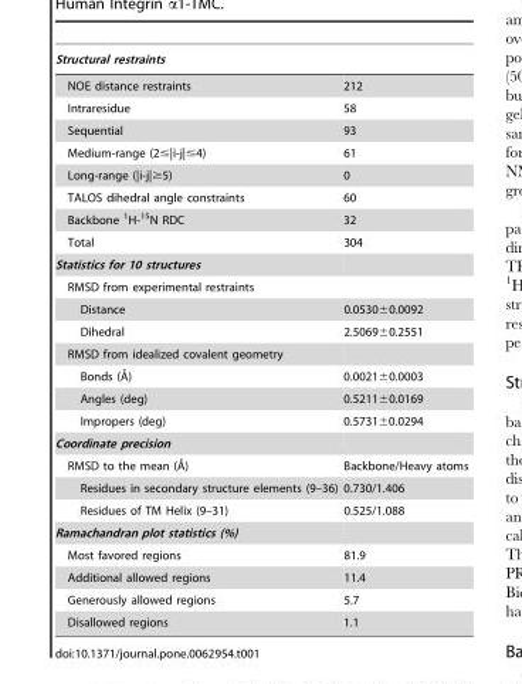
<table><thead><tr><td>Structural restraints</td><td></td></tr></thead><tbody><tr><td>NOE distance restraints</td><td>212</td></tr><tr><td>Intraresidue</td><td>58</td></tr><tr><td>Sequential</td><td>93</td></tr><tr><td>Medium-range (2≤|i-j|≤4)</td><td>61</td></tr><tr><td>Long-range (|i-j|≥5)</td><td>0</td></tr><tr><td>TALOS dihedral angle constraints</td><td>60</td></tr><tr><td>Backbone <sup>1</sup>H-<sup>15</sup>N RDC</td><td>32</td></tr><tr><td>Total</td><td>304</td></tr><tr><td colspan="2">Statistics for 10 structures</td></tr><tr><td colspan="2">RMSD from experimental restraints</td></tr><tr><td>Distance</td><td>0.0530±0.0092</td></tr><tr><td>Dihedral</td><td>2.5069±0.2551</td></tr><tr><td colspan="2">RMSD from idealized covalent geometry</td></tr><tr><td>Bonds (A˚)</td><td>0.0021±0.0003</td></tr><tr><td>Angles (deg)</td><td>0.5211±0.0169</td></tr><tr><td>Impropers (deg)</td><td>0.5731±0.0294</td></tr><tr><td colspan="2">Coordinate precision</td></tr><tr><td>RMSD to the mean (A˚)</td><td>Backbone/Heavy atoms</td></tr><tr><td>Residues in secondary structure elements (9–36)</td><td>0.730/1.406</td></tr><tr><td>Residues of TM Helix (9–31)</td><td>0.525/1.088</td></tr><tr><td colspan="2">Ramachandran plot statistics (%)</td></tr><tr><td>Most favored regions</td><td>81.9</td></tr><tr><td>Additional allowed regions</td><td>11.4</td></tr><tr><td>Generously allowed regions</td><td>5.7</td></tr><tr><td>Disallowed regions</td><td>1.1</td></tr></tbody></table>